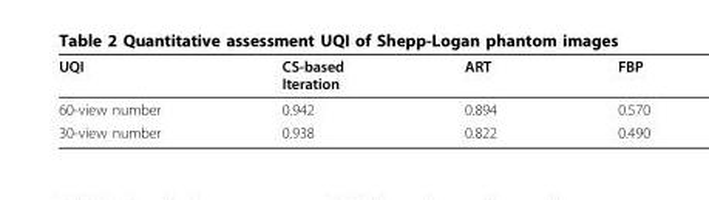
<table><thead><tr><td>UQI</td><td>CS-based Iteration</td><td>ART</td><td>FBP</td></tr></thead><tbody><tr><td>60-view number</td><td>0.942</td><td>0.894</td><td>0.570</td></tr><tr><td>30-view number</td><td>0.938</td><td>0.822</td><td>0.490</td></tr></tbody></table>